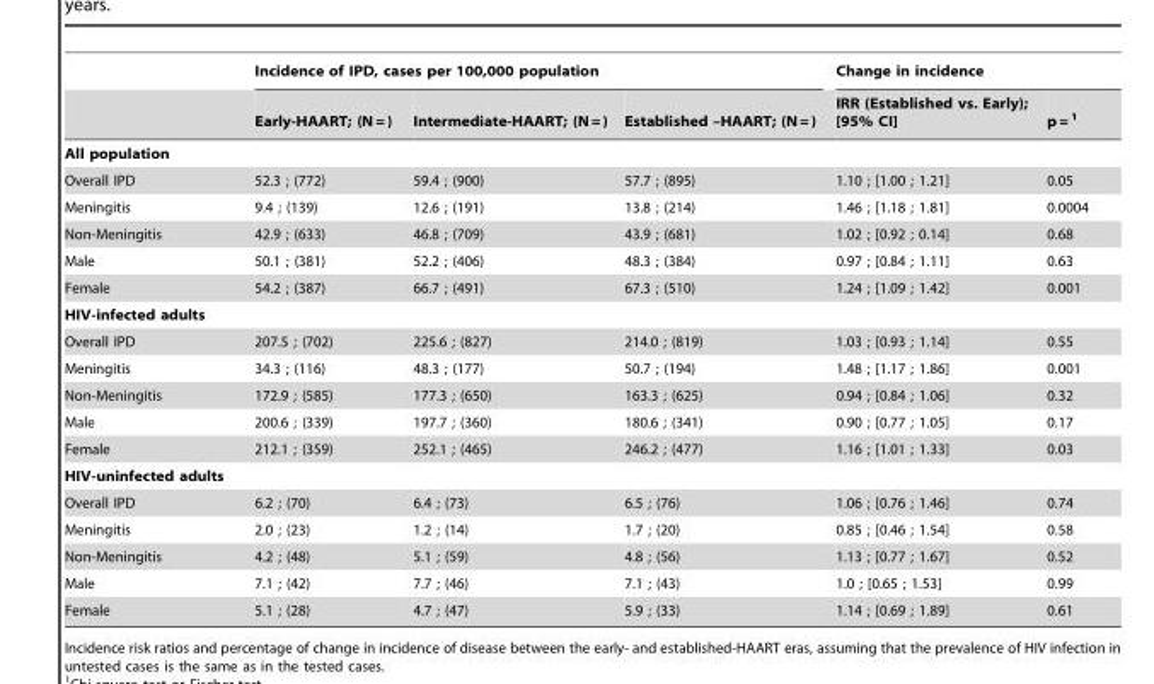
<table><thead><tr><td rowspan="2"></td><td colspan="3">Incidence of IPD, cases per 100,000 population</td><td colspan="2">Change in incidence</td></tr><tr><td>Early-HAART; (N = )</td><td>Intermediate-HAART; (N = )</td><td>Established –HAART; (N = )</td><td>IRR (Established vs. Early); [95% CI]</td><td>p = 1</td></tr></thead><tbody><tr><td colspan="6">All population</td></tr><tr><td>Overall IPD</td><td>52.3 ; (772)</td><td>59.4 ; (900)</td><td>57.7 ; (895)</td><td>1.10 ; [1.00 ; 1.21]</td><td>0.05</td></tr><tr><td>Meningitis</td><td>9.4 ; (139)</td><td>12.6 ; (191)</td><td>13.8 ; (214)</td><td>1.46 ; [1.18 ; 1.81]</td><td>0.0004</td></tr><tr><td>Non-Meningitis</td><td>42.9 ; (633)</td><td>46.8 ; (709)</td><td>43.9 ; (681)</td><td>1.02 ; [0.92 ; 0.14]</td><td>0.68</td></tr><tr><td>Male</td><td>50.1 ; (381)</td><td>52.2 ; (406)</td><td>48.3 ; (384)</td><td>0.97 ; [0.84 ; 1.11]</td><td>0.63</td></tr><tr><td>Female</td><td>54.2 ; (387)</td><td>66.7 ; (491)</td><td>67.3 ; (510)</td><td>1.24 ; [1.09 ; 1.42]</td><td>0.001</td></tr><tr><td colspan="6">HIV-infected adults</td></tr><tr><td>Overall IPD</td><td>207.5 ; (702)</td><td>225.6 ; (827)</td><td>214.0 ; (819)</td><td>1.03 ; [0.93 ; 1.14]</td><td>0.55</td></tr><tr><td>Meningitis</td><td>34.3 ; (116)</td><td>48.3 ; (177)</td><td>50.7 ; (194)</td><td>1.48 ; [1.17 ; 1.86]</td><td>0.001</td></tr><tr><td>Non-Meningitis</td><td>172.9 ; (585)</td><td>177.3 ; (650)</td><td>163.3 ; (625)</td><td>0.94 ; [0.84 ; 1.06]</td><td>0.32</td></tr><tr><td>Male</td><td>200.6 ; (339)</td><td>197.7 ; (360)</td><td>180.6 ; (341)</td><td>0.90 ; [0.77 ; 1.05]</td><td>0.17</td></tr><tr><td>Female</td><td>212.1 ; (359)</td><td>252.1 ; (465)</td><td>246.2 ; (477)</td><td>1.16 ; [1.01 ; 1.33]</td><td>0.03</td></tr><tr><td colspan="6">HIV-uninfected adults</td></tr><tr><td>Overall IPD</td><td>6.2 ; (70)</td><td>6.4 ; (73)</td><td>6.5 ; (76)</td><td>1.06 ; [0.76 ; 1.46]</td><td>0.74</td></tr><tr><td>Meningitis</td><td>2.0 ; (23)</td><td>1.2 ; (14)</td><td>1.7 ; (20)</td><td>0.85 ; [0.46 ; 1.54]</td><td>0.58</td></tr><tr><td>Non-Meningitis</td><td>4.2 ; (48)</td><td>5.1 ; (59)</td><td>4.8 ; (56)</td><td>1.13 ; [0.77 ; 1.67]</td><td>0.52</td></tr><tr><td>Male</td><td>7.1 ; (42)</td><td>7.7 ; (46)</td><td>7.1 ; (43)</td><td>1.0 ; [0.65 ; 1.53]</td><td>0.99</td></tr><tr><td>Female</td><td>5.1 ; (28)</td><td>4.7 ; (47)</td><td>5.9 ; (33)</td><td>1.14 ; [0.69 ; 1.89]</td><td>0.61</td></tr></tbody></table>